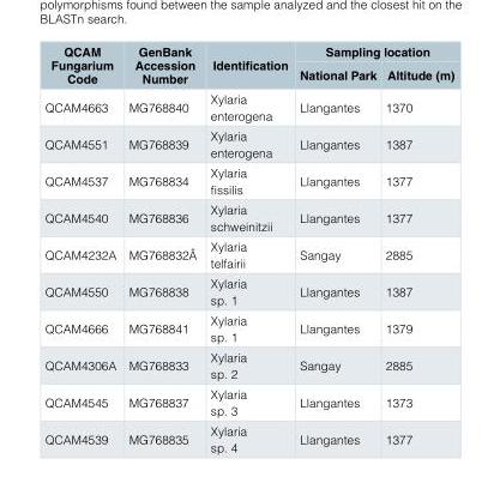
<table><thead><tr><td rowspan="2">QCAM Fungarium Code</td><td rowspan="2">GenBank Accession Number</td><td rowspan="2">Identification</td><td colspan="2">Sampling location</td></tr><tr><td>National Park</td><td>Altitude (m)</td></tr></thead><tbody><tr><td>QCAM4663</td><td>MG768840</td><td>Xylaria enterogena</td><td>Llangantes</td><td>1370</td></tr><tr><td>QCAM4551</td><td>MG768839</td><td>Xylaria enterogena</td><td>Llangantes</td><td>1387</td></tr><tr><td>QCAM4537</td><td>MG768834</td><td>Xylaria fissilis</td><td>Llangantes</td><td>1377</td></tr><tr><td>QCAM4540</td><td>MG768836</td><td>Xylaria schweinitzii</td><td>Llangantes</td><td>1377</td></tr><tr><td>QCAM4232A</td><td>MG768832Â</td><td>Xylaria telfairii</td><td>Sangay</td><td>2885</td></tr><tr><td>QCAM4550</td><td>MG768838</td><td>Xylaria sp. 1</td><td>Llangantes</td><td>1387</td></tr><tr><td>QCAM4666</td><td>MG768841</td><td>Xylaria sp. 1</td><td>Llangantes</td><td>1379</td></tr><tr><td>QCAM4306A</td><td>MG768833</td><td>Xylaria sp. 2</td><td>Sangay</td><td>2885</td></tr><tr><td>QCAM4545</td><td>MG768837</td><td>Xylaria sp. 3</td><td>Llangantes</td><td>1373</td></tr><tr><td>QCAM4539</td><td>MG768835</td><td>Xylaria sp. 4</td><td>Llangantes</td><td>1377</td></tr></tbody></table>